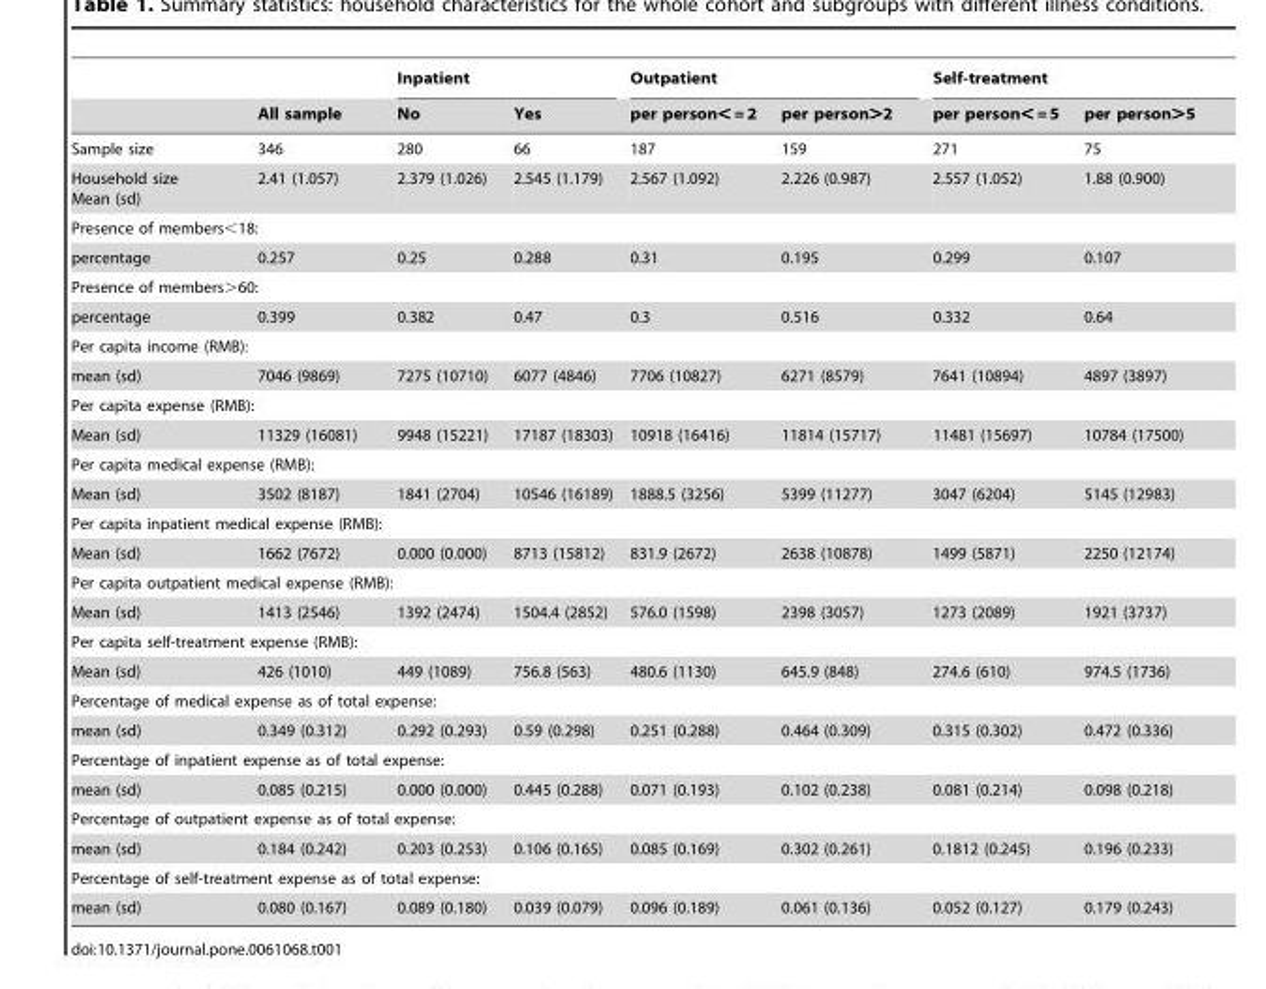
<table><thead><tr><td rowspan="2"></td><td rowspan="2">All sample</td><td colspan="2">Inpatient</td><td colspan="2">Outpatient</td><td colspan="2">Self-treatment</td></tr><tr><td>No</td><td>Yes</td><td>per person&lt; = 2</td><td>per person&gt;2</td><td>per person&lt; = 5</td><td>per person&gt;5</td></tr></thead><tbody><tr><td>Sample size</td><td>346</td><td>280</td><td>66</td><td>187</td><td>159</td><td>271</td><td>75</td></tr><tr><td>Household size Mean (sd)</td><td>2.41 (1.057)</td><td>2.379 (1.026)</td><td>2.545 (1.179)</td><td>2.567 (1.092)</td><td>2.226 (0.987)</td><td>2.557 (1.052)</td><td>1.88 (0.900)</td></tr><tr><td colspan="8">Presence of members&lt;18:</td></tr><tr><td>percentage</td><td>0.257</td><td>0.25</td><td>0.288</td><td>0.31</td><td>0.195</td><td>0.299</td><td>0.107</td></tr><tr><td colspan="8">Presence of members&gt;60:</td></tr><tr><td>percentage</td><td>0.399</td><td>0.382</td><td>0.47</td><td>0.3</td><td>0.516</td><td>0.332</td><td>0.64</td></tr><tr><td colspan="8">Per capita income (RMB):</td></tr><tr><td>mean (sd)</td><td>7046 (9869)</td><td>7275 (10710)</td><td>6077 (4846)</td><td>7706 (10827)</td><td>6271 (8579)</td><td>7641 (10894)</td><td>4897 (3897)</td></tr><tr><td colspan="8">Per capita expense (RMB):</td></tr><tr><td>Mean (sd)</td><td>11329 (16081)</td><td>9948 (15221)</td><td>17187 (18303)</td><td>10918 (16416)</td><td>11814 (15717)</td><td>11481 (15697)</td><td>10784 (17500)</td></tr><tr><td colspan="8">Per capita medical expense (RMB):</td></tr><tr><td>Mean (sd)</td><td>3502 (8187)</td><td>1841 (2704)</td><td>10546 (16189)</td><td>1888.5 (3256)</td><td>5399 (11277)</td><td>3047 (6204)</td><td>5145 (12983)</td></tr><tr><td colspan="8">Per capita inpatient medical expense (RMB):</td></tr><tr><td>Mean (sd)</td><td>1662 (7672)</td><td>0.000 (0.000)</td><td>8713 (15812)</td><td>831.9 (2672)</td><td>2638 (10878)</td><td>1499 (5871)</td><td>2250 (12174)</td></tr><tr><td colspan="8">Per capita outpatient medical expense (RMB):</td></tr><tr><td>Mean (sd)</td><td>1413 (2546)</td><td>1392 (2474)</td><td>1504.4 (2852)</td><td>576.0 (1598)</td><td>2398 (3057)</td><td>1273 (2089)</td><td>1921 (3737)</td></tr><tr><td colspan="8">Per capita self-treatment expense (RMB):</td></tr><tr><td>Mean (sd)</td><td>426 (1010)</td><td>449 (1089)</td><td>756.8 (563)</td><td>480.6 (1130)</td><td>645.9 (848)</td><td>274.6 (610)</td><td>974.5 (1736)</td></tr><tr><td colspan="8">Percentage of medical expense as of total expense:</td></tr><tr><td>mean (sd)</td><td>0.349 (0.312)</td><td>0.292 (0.293)</td><td>0.59 (0.298)</td><td>0.251 (0.288)</td><td>0.464 (0.309)</td><td>0.315 (0.302)</td><td>0.472 (0.336)</td></tr><tr><td colspan="8">Percentage of inpatient expense as of total expense:</td></tr><tr><td>mean (sd)</td><td>0.085 (0.215)</td><td>0.000 (0.000)</td><td>0.445 (0.288)</td><td>0.071 (0.193)</td><td>0.102 (0.238)</td><td>0.081 (0.214)</td><td>0.098 (0.218)</td></tr><tr><td colspan="8">Percentage of outpatient expense as of total expense:</td></tr><tr><td>mean (sd)</td><td>0.184 (0.242)</td><td>0.203 (0.253)</td><td>0.106 (0.165)</td><td>0.085 (0.169)</td><td>0.302 (0.261)</td><td>0.1812 (0.245)</td><td>0.196 (0.233)</td></tr><tr><td colspan="8">Percentage of self-treatment expense as of total expense:</td></tr><tr><td>mean (sd)</td><td>0.080 (0.167)</td><td>0.089 (0.180)</td><td>0.039 (0.079)</td><td>0.096 (0.189)</td><td>0.061 (0.136)</td><td>0.052 (0.127)</td><td>0.179 (0.243)</td></tr></tbody></table>